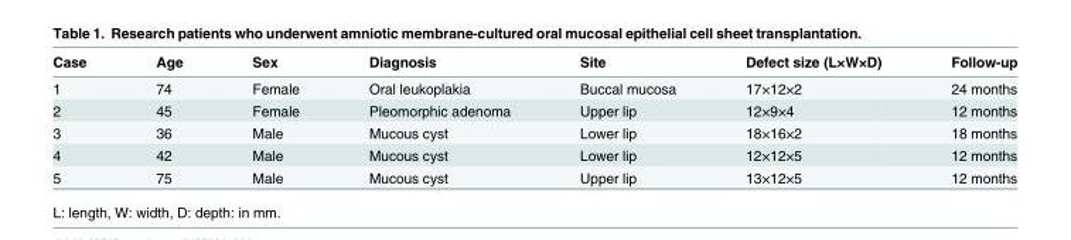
<table><thead><tr><td>Case</td><td>Age</td><td>Sex</td><td>Diagnosis</td><td>Site</td><td>Defect size (L×W×D)</td><td>Follow-up</td></tr></thead><tbody><tr><td>1</td><td>74</td><td>Female</td><td>Oral leukoplakia</td><td>Buccal mucosa</td><td>17×12×2</td><td>24 months</td></tr><tr><td>2</td><td>45</td><td>Female</td><td>Pleomorphic adenoma</td><td>Upper lip</td><td>12×9×4</td><td>12 months</td></tr><tr><td>3</td><td>36</td><td>Male</td><td>Mucous cyst</td><td>Lower lip</td><td>18×16×2</td><td>18 months</td></tr><tr><td>4</td><td>42</td><td>Male</td><td>Mucous cyst</td><td>Lower lip</td><td>12×12×5</td><td>12 months</td></tr><tr><td>5</td><td>75</td><td>Male</td><td>Mucous cyst</td><td>Upper lip</td><td>13×12×5</td><td>12 months</td></tr></tbody></table>